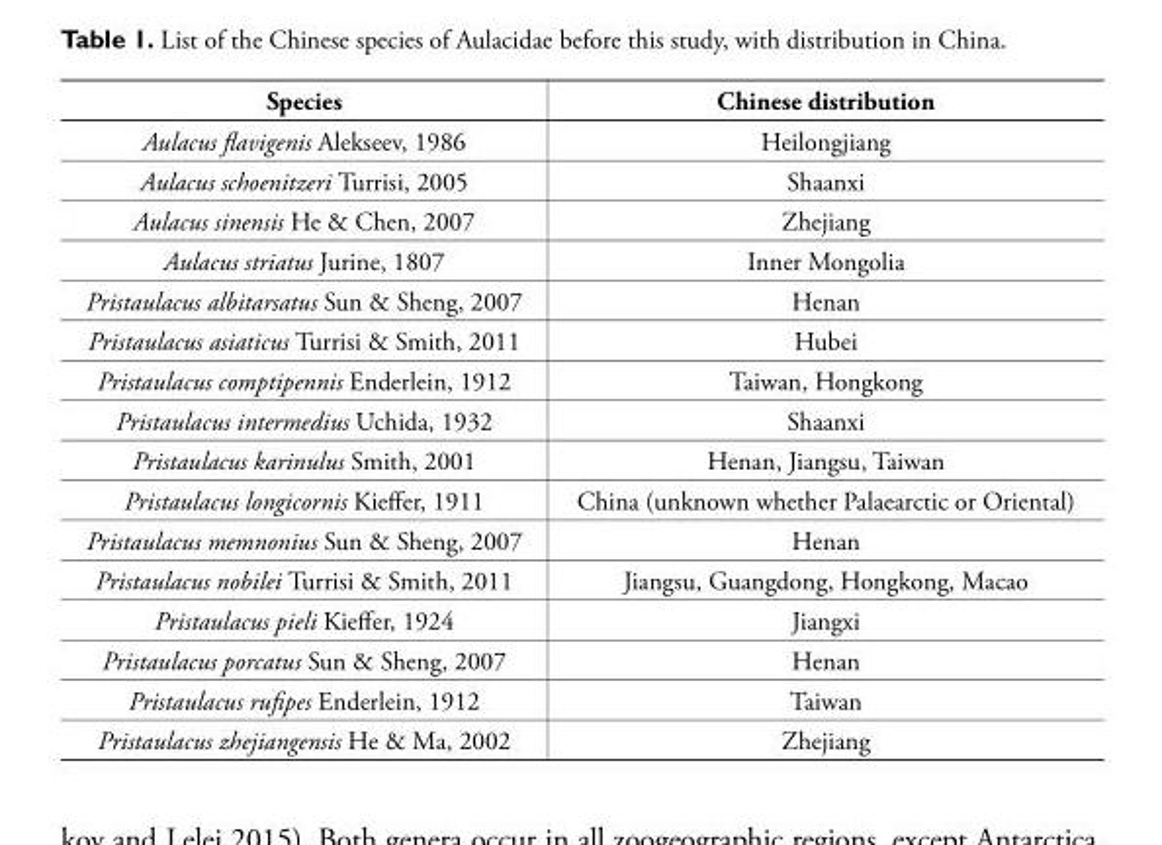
<table><thead><tr><td>Species</td><td>Chinese distribution</td></tr></thead><tbody><tr><td>Aulacus flavigenis Alekseev, 1986</td><td>Heilongjiang</td></tr><tr><td>Aulacus schoenitzeri Turrisi, 2005</td><td>Shaanxi</td></tr><tr><td>Aulacus sinensis He &amp; Chen, 2007</td><td>Zhejiang</td></tr><tr><td>Aulacus striatus Jurine, 1807</td><td>Inner Mongolia</td></tr><tr><td>Pristaulacus albitarsatus Sun &amp; Sheng, 2007</td><td>Henan</td></tr><tr><td>Pristaulacus asiaticus Turrisi &amp; Smith, 2011</td><td>Hubei</td></tr><tr><td>Pristaulacus comptipennis Enderlein, 1912</td><td>Taiwan, Hongkong</td></tr><tr><td>Pristaulacus intermedius Uchida, 1932</td><td>Shaanxi</td></tr><tr><td>Pristaulacus karinulus Smith, 2001</td><td>Henan, Jiangsu, Taiwan</td></tr><tr><td>Pristaulacus longicornis Kieffer, 1911</td><td>China (unknown whether Palaearctic or Oriental)</td></tr><tr><td>Pristaulacus memnonius Sun &amp; Sheng, 2007</td><td>Henan</td></tr><tr><td>Pristaulacus nobilei Turrisi &amp; Smith, 2011</td><td>Jiangsu, Guangdong, Hongkong, Macao</td></tr><tr><td>Pristaulacus pieli Kieffer, 1924</td><td>Jiangxi</td></tr><tr><td>Pristaulacus porcatus Sun &amp; Sheng, 2007</td><td>Henan</td></tr><tr><td>Pristaulacus rufipes Enderlein, 1912</td><td>Taiwan</td></tr><tr><td>Pristaulacus zhejiangensis He &amp; Ma, 2002</td><td>Zhejiang</td></tr></tbody></table>